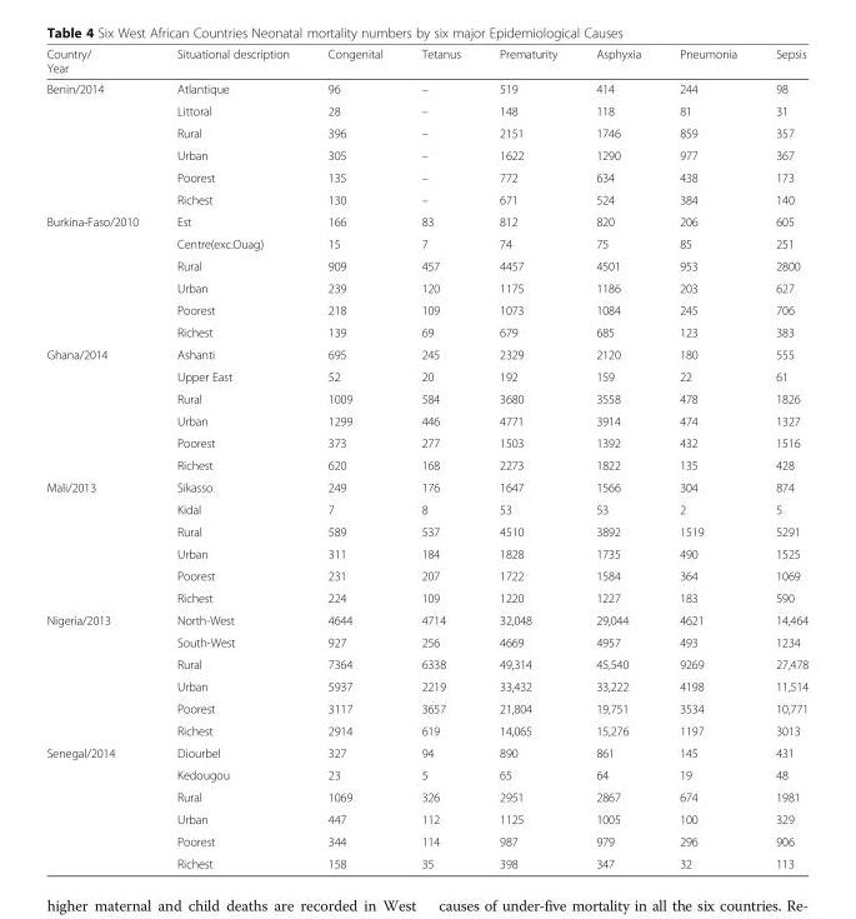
<table><thead><tr><td>Country/ Year</td><td>Situational description</td><td>Congenital</td><td>Tetanus</td><td>Prematurity</td><td>Asphyxia</td><td>Pneumonia</td><td>Sepsis</td></tr></thead><tbody><tr><td rowspan="6">Benin/2014</td><td>Atlantique</td><td>96</td><td>–</td><td>519</td><td>414</td><td>244</td><td>98</td></tr><tr><td>Littoral</td><td>28</td><td>–</td><td>148</td><td>118</td><td>81</td><td>31</td></tr><tr><td>Rural</td><td>396</td><td>–</td><td>2151</td><td>1746</td><td>859</td><td>357</td></tr><tr><td>Urban</td><td>305</td><td>–</td><td>1622</td><td>1290</td><td>977</td><td>367</td></tr><tr><td>Poorest</td><td>135</td><td>–</td><td>772</td><td>634</td><td>438</td><td>173</td></tr><tr><td>Richest</td><td>130</td><td>–</td><td>671</td><td>524</td><td>384</td><td>140</td></tr><tr><td rowspan="6">Burkina-Faso/2010</td><td>Est</td><td>166</td><td>83</td><td>812</td><td>820</td><td>206</td><td>605</td></tr><tr><td>Centre(exc.Ouag)</td><td>15</td><td>7</td><td>74</td><td>75</td><td>85</td><td>251</td></tr><tr><td>Rural</td><td>909</td><td>457</td><td>4457</td><td>4501</td><td>953</td><td>2800</td></tr><tr><td>Urban</td><td>239</td><td>120</td><td>1175</td><td>1186</td><td>203</td><td>627</td></tr><tr><td>Poorest</td><td>218</td><td>109</td><td>1073</td><td>1084</td><td>245</td><td>706</td></tr><tr><td>Richest</td><td>139</td><td>69</td><td>679</td><td>685</td><td>123</td><td>383</td></tr><tr><td rowspan="6">Ghana/2014</td><td>Ashanti</td><td>695</td><td>245</td><td>2329</td><td>2120</td><td>180</td><td>555</td></tr><tr><td>Upper East</td><td>52</td><td>20</td><td>192</td><td>159</td><td>22</td><td>61</td></tr><tr><td>Rural</td><td>1009</td><td>584</td><td>3680</td><td>3558</td><td>478</td><td>1826</td></tr><tr><td>Urban</td><td>1299</td><td>446</td><td>4771</td><td>3914</td><td>474</td><td>1327</td></tr><tr><td>Poorest</td><td>373</td><td>277</td><td>1503</td><td>1392</td><td>432</td><td>1516</td></tr><tr><td>Richest</td><td>620</td><td>168</td><td>2273</td><td>1822</td><td>135</td><td>428</td></tr><tr><td rowspan="6">Mali/2013</td><td>Sikasso</td><td>249</td><td>176</td><td>1647</td><td>1566</td><td>304</td><td>874</td></tr><tr><td>Kidal</td><td>7</td><td>8</td><td>53</td><td>53</td><td>2</td><td>5</td></tr><tr><td>Rural</td><td>589</td><td>537</td><td>4510</td><td>3892</td><td>1519</td><td>5291</td></tr><tr><td>Urban</td><td>311</td><td>184</td><td>1828</td><td>1735</td><td>490</td><td>1525</td></tr><tr><td>Poorest</td><td>231</td><td>207</td><td>1722</td><td>1584</td><td>364</td><td>1069</td></tr><tr><td>Richest</td><td>224</td><td>109</td><td>1220</td><td>1227</td><td>183</td><td>590</td></tr><tr><td rowspan="6">Nigeria/2013</td><td>North-West</td><td>4644</td><td>4714</td><td>32,048</td><td>29,044</td><td>4621</td><td>14,464</td></tr><tr><td>South-West</td><td>927</td><td>256</td><td>4669</td><td>4957</td><td>493</td><td>1234</td></tr><tr><td>Rural</td><td>7364</td><td>6338</td><td>49,314</td><td>45,540</td><td>9269</td><td>27,478</td></tr><tr><td>Urban</td><td>5937</td><td>2219</td><td>33,432</td><td>33,222</td><td>4198</td><td>11,514</td></tr><tr><td>Poorest</td><td>3117</td><td>3657</td><td>21,804</td><td>19,751</td><td>3534</td><td>10,771</td></tr><tr><td>Richest</td><td>2914</td><td>619</td><td>14,065</td><td>15,276</td><td>1197</td><td>3013</td></tr><tr><td rowspan="6">Senegal/2014</td><td>Diourbel</td><td>327</td><td>94</td><td>890</td><td>861</td><td>145</td><td>431</td></tr><tr><td>Kedougou</td><td>23</td><td>5</td><td>65</td><td>64</td><td>19</td><td>48</td></tr><tr><td>Rural</td><td>1069</td><td>326</td><td>2951</td><td>2867</td><td>674</td><td>1981</td></tr><tr><td>Urban</td><td>447</td><td>112</td><td>1125</td><td>1005</td><td>100</td><td>329</td></tr><tr><td>Poorest</td><td>344</td><td>114</td><td>987</td><td>979</td><td>296</td><td>906</td></tr><tr><td>Richest</td><td>158</td><td>35</td><td>398</td><td>347</td><td>32</td><td>113</td></tr></tbody></table>